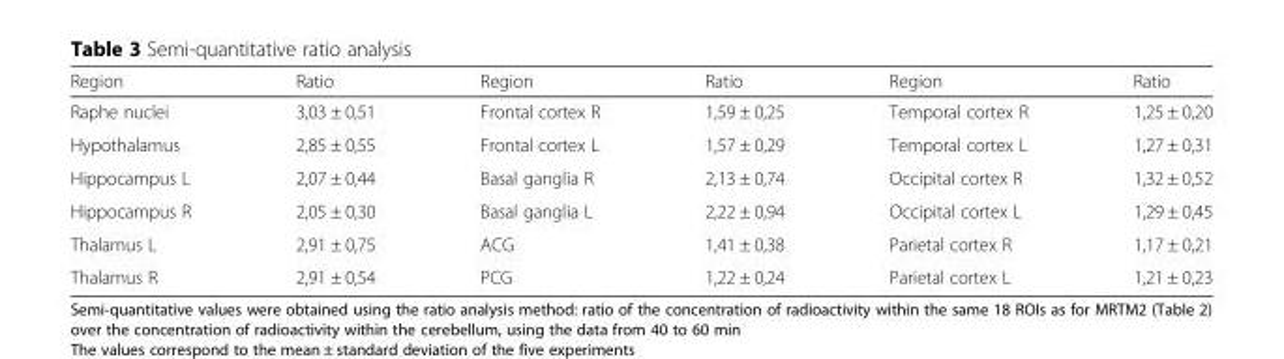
<table><thead><tr><td>Region</td><td>Ratio</td><td>Region</td><td>Ratio</td><td>Region</td><td>Ratio</td></tr></thead><tbody><tr><td>Raphe nuclei</td><td>3,03 ± 0,51</td><td>Frontal cortex R</td><td>1,59 ± 0,25</td><td>Temporal cortex R</td><td>1,25 ± 0,20</td></tr><tr><td>Hypothalamus</td><td>2,85 ± 0,55</td><td>Frontal cortex L</td><td>1,57 ± 0,29</td><td>Temporal cortex L</td><td>1,27 ± 0,31</td></tr><tr><td>Hippocampus L</td><td>2,07 ± 0,44</td><td>Basal ganglia R</td><td>2,13 ± 0,74</td><td>Occipital cortex R</td><td>1,32 ± 0,52</td></tr><tr><td>Hippocampus R</td><td>2,05 ± 0,30</td><td>Basal ganglia L</td><td>2,22 ± 0,94</td><td>Occipital cortex L</td><td>1,29 ± 0,45</td></tr><tr><td>Thalamus L</td><td>2,91 ± 0,75</td><td>ACG</td><td>1,41 ± 0,38</td><td>Parietal cortex R</td><td>1,17 ± 0,21</td></tr><tr><td>Thalamus R</td><td>2,91 ± 0,54</td><td>PCG</td><td>1,22 ± 0,24</td><td>Parietal cortex L</td><td>1,21 ± 0,23</td></tr></tbody></table>